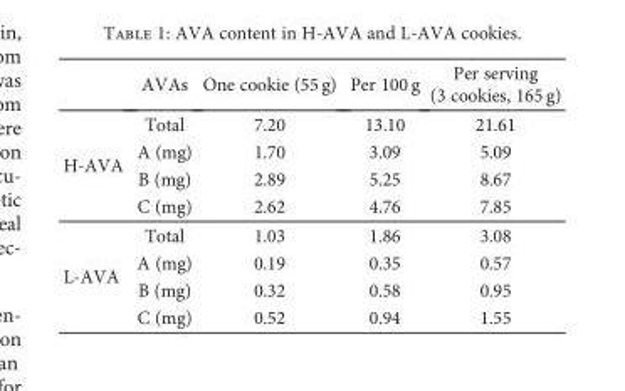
<table><thead><tr><td></td><td>AVAs</td><td>One cookie (55 g)</td><td>Per 100 g</td><td>Per serving (3 cookies, 165 g)</td></tr></thead><tbody><tr><td rowspan="4">H-AVA</td><td>Total</td><td>7.20</td><td>13.10</td><td>21.61</td></tr><tr><td>A (mg)</td><td>1.70</td><td>3.09</td><td>5.09</td></tr><tr><td>B (mg)</td><td>2.89</td><td>5.25</td><td>8.67</td></tr><tr><td>C (mg)</td><td>2.62</td><td>4.76</td><td>7.85</td></tr><tr><td rowspan="4">L-AVA</td><td>Total</td><td>1.03</td><td>1.86</td><td>3.08</td></tr><tr><td>A (mg)</td><td>0.19</td><td>0.35</td><td>0.57</td></tr><tr><td>B (mg)</td><td>0.32</td><td>0.58</td><td>0.95</td></tr><tr><td>C (mg)</td><td>0.52</td><td>0.94</td><td>1.55</td></tr></tbody></table>